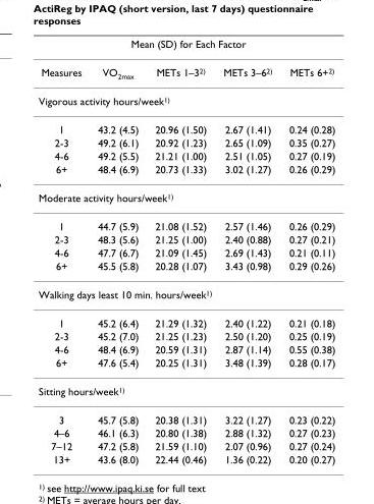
<table><thead><tr><td colspan="5">Mean (SD) for Each Factor</td></tr><tr><td>Measures</td><td>VO<sub>2max</sub></td><td>METs 1–3<sup>2)</sup></td><td>METs 3–6<sup>2)</sup></td><td>METs 6+<sup>2)</sup></td></tr></thead><tbody><tr><td colspan="5">Vigorous activity hours/week<sup>1)</sup></td></tr><tr><td>1</td><td>43.2 (4.5)</td><td>20.96 (1.50)</td><td>2.67 (1.41)</td><td>0.24 (0.28)</td></tr><tr><td>2-3</td><td>49.2 (6.1)</td><td>20.92 (1.23)</td><td>2.65 (1.09)</td><td>0.35 (0.27)</td></tr><tr><td>4-6</td><td>49.2 (5.5)</td><td>21.21 (1.00)</td><td>2.51 (1.05)</td><td>0.27 (0.19)</td></tr><tr><td>6+</td><td>48.4 (6.9)</td><td>20.73 (1.33)</td><td>3.02 (1.27)</td><td>0.26 (0.29)</td></tr><tr><td colspan="5">Moderate activity hours/week<sup>1)</sup></td></tr><tr><td>1</td><td>44.7 (5.9)</td><td>21.08 (1.52)</td><td>2.57 (1.46)</td><td>0.26 (0.29)</td></tr><tr><td>2-3</td><td>48.3 (5.6)</td><td>21.25 (1.00)</td><td>2.40 (0.88)</td><td>0.27 (0.21)</td></tr><tr><td>4-6</td><td>47.7 (6.7)</td><td>21.09 (1.45)</td><td>2.69 (1.43)</td><td>0.21 (0.11)</td></tr><tr><td>6+</td><td>45.5 (5.8)</td><td>20.28 (1.07)</td><td>3.43 (0.98)</td><td>0.29 (0.26)</td></tr><tr><td colspan="5">Walking days least 10 min. hours/week<sup>1)</sup></td></tr><tr><td>1</td><td>45.2 (6.4)</td><td>21.29 (1.32)</td><td>2.40 (1.22)</td><td>0.21 (0.18)</td></tr><tr><td>2-3</td><td>45.2 (7.0)</td><td>21.25 (1.23)</td><td>2.50 (1.20)</td><td>0.25 (0.19)</td></tr><tr><td>4-6</td><td>48.4 (6.9)</td><td>20.59 (1.31)</td><td>2.87 (1.14)</td><td>0.55 (0.38)</td></tr><tr><td>6+</td><td>47.6 (5.4)</td><td>20.25 (1.31)</td><td>3.48 (1.39)</td><td>0.28 (0.17)</td></tr><tr><td colspan="5">Sitting hours/week<sup>1)</sup></td></tr><tr><td>3</td><td>45.7 (5.8)</td><td>20.38 (1.31)</td><td>3.22 (1.27)</td><td>0.23 (0.22)</td></tr><tr><td>4–6</td><td>46.1 (6.3)</td><td>20.80 (1.38)</td><td>2.88 (1.32)</td><td>0.27 (0.23)</td></tr><tr><td>7–12</td><td>47.2 (5.8)</td><td>21.59 (1.10)</td><td>2.07 (0.96)</td><td>0.27 (0.24)</td></tr><tr><td>13+</td><td>43.6 (8.0)</td><td>22.44 (0.46)</td><td>1.36 (0.22)</td><td>0.20 (0.27)</td></tr></tbody></table>